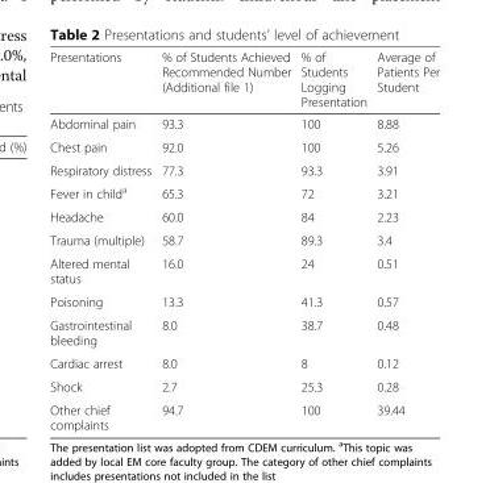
<table><thead><tr><td>Presentations</td><td>% of Students Achieved Recommended Number (Additional file 1)</td><td>% of Students Logging Presentation</td><td>Average of Patients Per Student</td></tr></thead><tbody><tr><td>Abdominal pain</td><td>93.3</td><td>100</td><td>8.88</td></tr><tr><td>Chest pain</td><td>92.0</td><td>100</td><td>5.26</td></tr><tr><td>Respiratory distress</td><td>77.3</td><td>93.3</td><td>3.91</td></tr><tr><td>Fever in child<sup>a</sup></td><td>65.3</td><td>72</td><td>3.21</td></tr><tr><td>Headache</td><td>60.0</td><td>84</td><td>2.23</td></tr><tr><td>Trauma (multiple)</td><td>58.7</td><td>89.3</td><td>3.4</td></tr><tr><td>Altered mental status</td><td>16.0</td><td>24</td><td>0.51</td></tr><tr><td>Poisoning</td><td>13.3</td><td>41.3</td><td>0.57</td></tr><tr><td>Gastrointestinal bleeding</td><td>8.0</td><td>38.7</td><td>0.48</td></tr><tr><td>Cardiac arrest</td><td>8.0</td><td>8</td><td>0.12</td></tr><tr><td>Shock</td><td>2.7</td><td>25.3</td><td>0.28</td></tr><tr><td>Other chief complaints</td><td>94.7</td><td>100</td><td>39.44</td></tr></tbody></table>